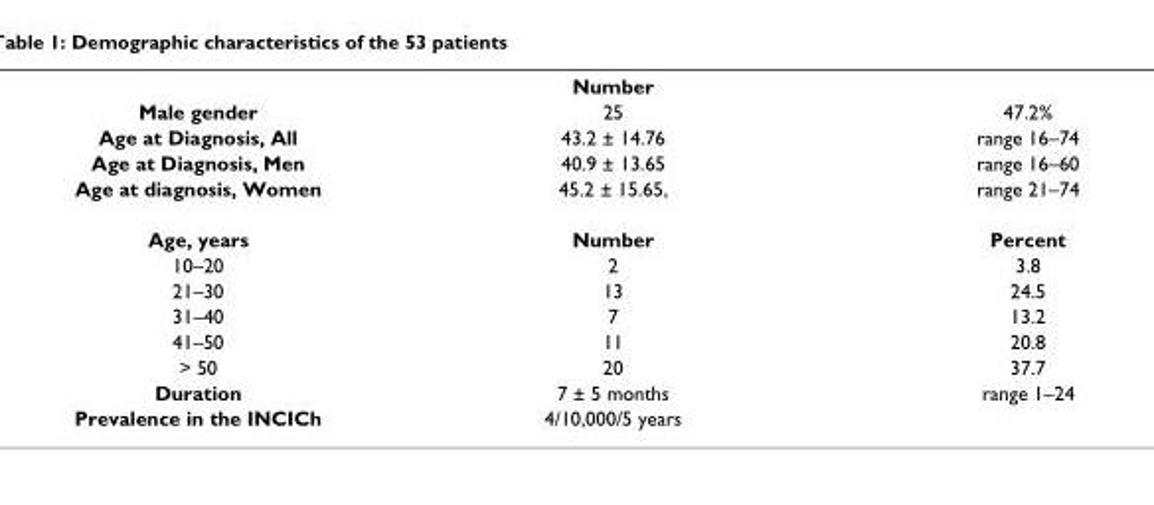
<table><thead><tr><td></td><td>Number</td><td></td></tr></thead><tbody><tr><td>Male gender</td><td>25</td><td>47.2%</td></tr><tr><td>Age at Diagnosis, All</td><td>43.2 ± 14.76</td><td>range 16–74</td></tr><tr><td>Age at Diagnosis, Men</td><td>40.9 ± 13.65</td><td>range 16–60</td></tr><tr><td>Age at diagnosis, Women</td><td>45.2 ± 15.65,</td><td>range 21–74</td></tr><tr><td>Age, years</td><td>Number</td><td>Percent</td></tr><tr><td>10–20</td><td>2</td><td>3.8</td></tr><tr><td>21–30</td><td>13</td><td>24.5</td></tr><tr><td>31–40</td><td>7</td><td>13.2</td></tr><tr><td>41–50</td><td>11</td><td>20.8</td></tr><tr><td>&gt; 50</td><td>20</td><td>37.7</td></tr><tr><td>Duration</td><td>7 ± 5 months</td><td>range 1–24</td></tr><tr><td>Prevalence in the INCICh</td><td>4/10,000/5 years</td><td></td></tr></tbody></table>